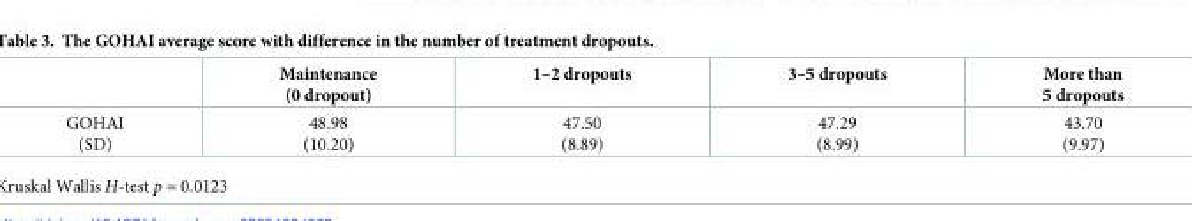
<table><thead><tr><td></td><td>Maintenance (0 dropout)</td><td>1–2 dropouts</td><td>3–5 dropouts</td><td>More than 5 dropouts</td></tr></thead><tbody><tr><td>GOHAI (SD)</td><td>48.98 (10.20)</td><td>47.50 (8.89)</td><td>47.29 (8.99)</td><td>43.70 (9.97)</td></tr></tbody></table>